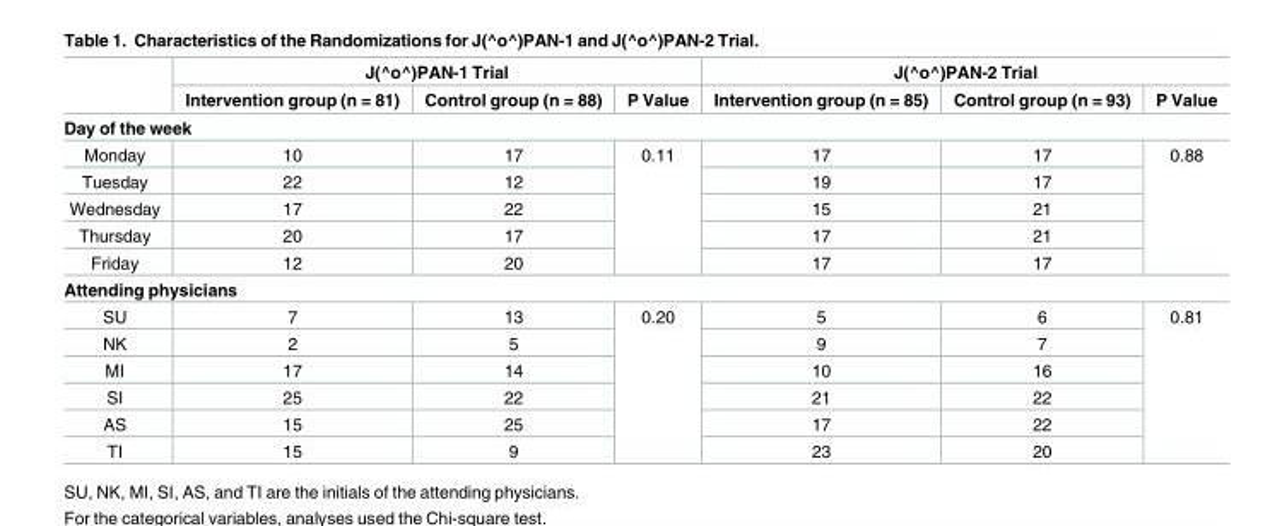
<table><thead><tr><td rowspan="2"></td><td colspan="3">J(^o^)PAN-1 Trial</td><td colspan="3">J(^o^)PAN-2 Trial</td></tr><tr><td>Intervention group (n = 81)</td><td>Control group (n = 88)</td><td>P Value</td><td>Intervention group (n = 85)</td><td>Control group (n = 93)</td><td>P Value</td></tr></thead><tbody><tr><td colspan="7">Day of the week</td></tr><tr><td>Monday</td><td>10</td><td>17</td><td rowspan="5">0.11</td><td>17</td><td>17</td><td rowspan="5">0.88</td></tr><tr><td>Tuesday</td><td>22</td><td>12</td><td>19</td><td>17</td></tr><tr><td>Wednesday</td><td>17</td><td>22</td><td>15</td><td>21</td></tr><tr><td>Thursday</td><td>20</td><td>17</td><td>17</td><td>21</td></tr><tr><td>Friday</td><td>12</td><td>20</td><td>17</td><td>17</td></tr><tr><td colspan="7">Attending physicians</td></tr><tr><td>SU</td><td>7</td><td>13</td><td rowspan="6">0.20</td><td>5</td><td>6</td><td rowspan="6">0.81</td></tr><tr><td>NK</td><td>2</td><td>5</td><td>9</td><td>7</td></tr><tr><td>MI</td><td>17</td><td>14</td><td>10</td><td>16</td></tr><tr><td>SI</td><td>25</td><td>22</td><td>21</td><td>22</td></tr><tr><td>AS</td><td>15</td><td>25</td><td>17</td><td>22</td></tr><tr><td>TI</td><td>15</td><td>9</td><td>23</td><td>20</td></tr></tbody></table>